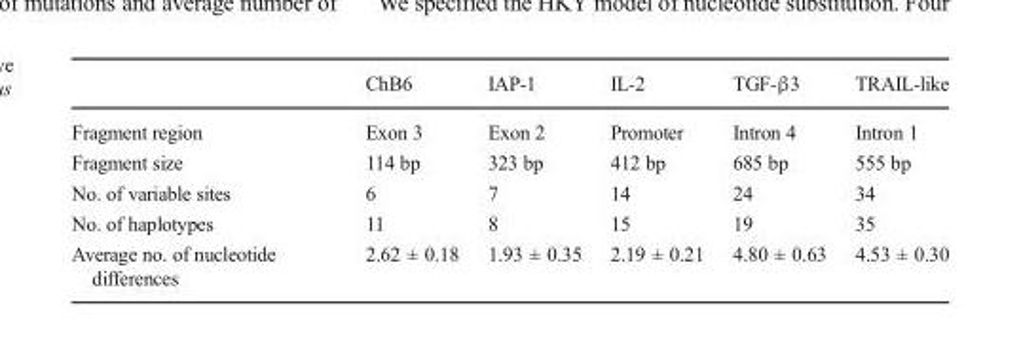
<table><thead><tr><td></td><td>ChB6</td><td>IAP-1</td><td>IL-2</td><td>TGF-β3</td><td>TRAIL-like</td></tr></thead><tbody><tr><td>Fragment region</td><td>Exon 3</td><td>Exon 2</td><td>Promoter</td><td>Intron 4</td><td>Intron 1</td></tr><tr><td>Fragment size</td><td>114 bp</td><td>323 bp</td><td>412 bp</td><td>685 bp</td><td>555 bp</td></tr><tr><td>No. of variable sites</td><td>6</td><td>7</td><td>14</td><td>24</td><td>34</td></tr><tr><td>No. of haplotypes</td><td>11</td><td>8</td><td>15</td><td>19</td><td>35</td></tr><tr><td>Average no. of nucleotide differences</td><td>2.62 ± 0.18</td><td>1.93 ± 0.35</td><td>2.19 ± 0.21</td><td>4.80 ± 0.63</td><td>4.53 ± 0.30</td></tr></tbody></table>